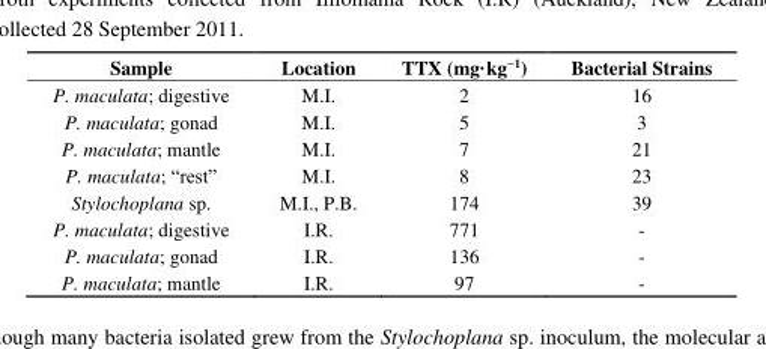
<table><thead><tr><td>Sample</td><td>Location</td><td>TTX (mg·kg<sup>−1</sup>)</td><td>Bacterial Strains</td></tr></thead><tbody><tr><td>P. maculata; digestive</td><td>M.I.</td><td>2</td><td>16</td></tr><tr><td>P. maculata; gonad</td><td>M.I.</td><td>5</td><td>3</td></tr><tr><td>P. maculata; mantle</td><td>M.I.</td><td>7</td><td>21</td></tr><tr><td>P. maculata; “rest”</td><td>M.I.</td><td>8</td><td>23</td></tr><tr><td>Stylochoplana sp.</td><td>M.I., P.B.</td><td>174</td><td>39</td></tr><tr><td>P. maculata; digestive</td><td>I.R.</td><td>771</td><td>-</td></tr><tr><td>P. maculata; gonad</td><td>I.R.</td><td>136</td><td>-</td></tr><tr><td>P. maculata; mantle</td><td>I.R.</td><td>97</td><td>-</td></tr></tbody></table>